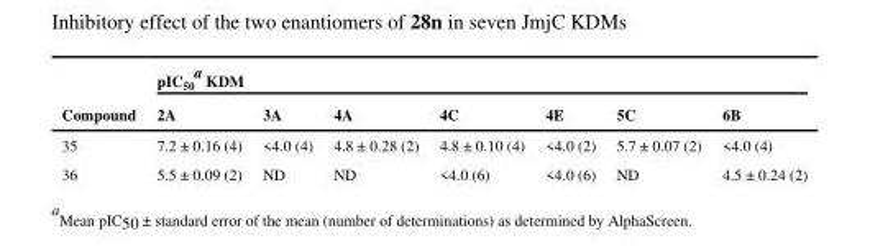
<table><thead><tr><td rowspan="2">Compound</td><td colspan="7">pIC<sub>50</sub><sup>a</sup> KDM</td></tr><tr><td>2A</td><td>3A</td><td>4A</td><td>4C</td><td>4E</td><td>5C</td><td>6B</td></tr></thead><tbody><tr><td>35</td><td>7.2 ± 0.16 (4)</td><td>&lt;4.0 (4)</td><td>4.8 ± 0.28 (2)</td><td>4.8 ± 0.10 (4)</td><td>&lt;4.0 (2)</td><td>5.7 ± 0.07 (2)</td><td>&lt;4.0 (4)</td></tr><tr><td>36</td><td>5.5 ± 0.09 (2)</td><td>ND</td><td>ND</td><td>&lt;4.0 (6)</td><td>&lt;4.0 (6)</td><td>ND</td><td>4.5 ± 0.24 (2)</td></tr></tbody></table>